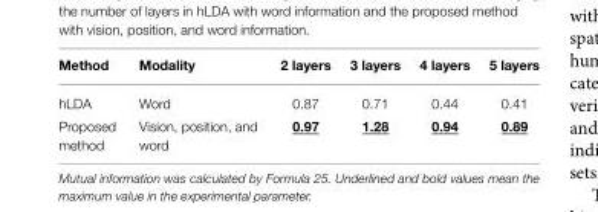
<table><thead><tr><td>Method</td><td>Modality</td><td>2 layers</td><td>3 layers</td><td>4 layers</td><td>5 layers</td></tr></thead><tbody><tr><td>hLDA</td><td>Word</td><td>0.87</td><td>0.71</td><td>0.44</td><td>0.41</td></tr><tr><td>Proposed method</td><td>Vision, position, and word</td><td>0.97</td><td>1.28</td><td>0.94</td><td>0.89</td></tr></tbody></table>